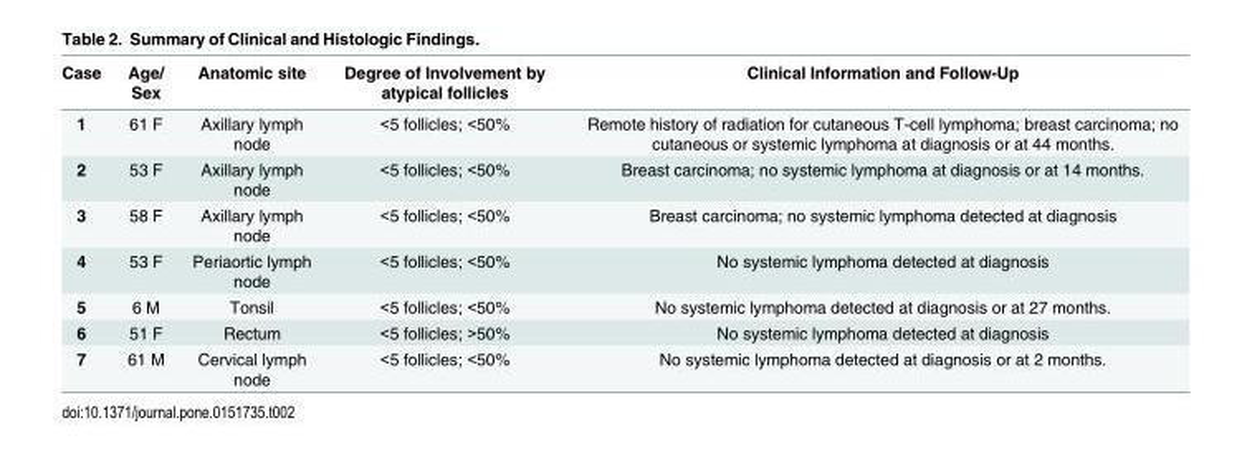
<table><thead><tr><td>Case</td><td>Age/ Sex</td><td>Anatomic site</td><td>Degree of Involvement by atypical follicles</td><td>Clinical Information and Follow-Up</td></tr></thead><tbody><tr><td>1</td><td>61 F</td><td>Axillary lymph node</td><td>&lt;5 follicles; &lt;50%</td><td>Remote history of radiation for cutaneous T-cell lymphoma; breast carcinoma; no cutaneous or systemic lymphoma at diagnosis or at 44 months.</td></tr><tr><td>2</td><td>53 F</td><td>Axillary lymph node</td><td>&lt;5 follicles; &lt;50%</td><td>Breast carcinoma; no systemic lymphoma at diagnosis or at 14 months.</td></tr><tr><td>3</td><td>58 F</td><td>Axillary lymph node</td><td>&lt;5 follicles; &lt;50%</td><td>Breast carcinoma; no systemic lymphoma detected at diagnosis</td></tr><tr><td>4</td><td>53 F</td><td>Periaortic lymph node</td><td>&lt;5 follicles; &lt;50%</td><td>No systemic lymphoma detected at diagnosis</td></tr><tr><td>5</td><td>6 M</td><td>Tonsil</td><td>&lt;5 follicles; &lt;50%</td><td>No systemic lymphoma detected at diagnosis or at 27 months.</td></tr><tr><td>6</td><td>51 F</td><td>Rectum</td><td>&lt;5 follicles; &gt;50%</td><td>No systemic lymphoma detected at diagnosis</td></tr><tr><td>7</td><td>61 M</td><td>Cervical lymph node</td><td>&lt;5 follicles; &lt;50%</td><td>No systemic lymphoma detected at diagnosis or at 2 months.</td></tr></tbody></table>